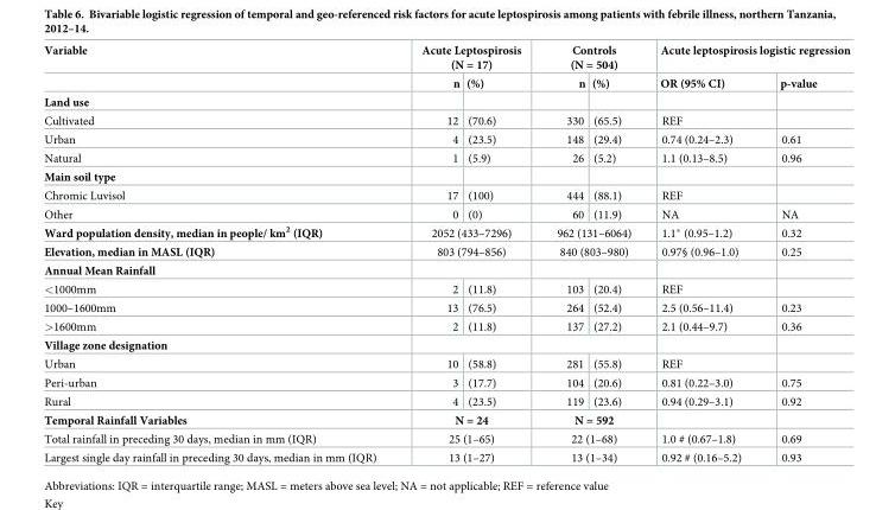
<table><thead><tr><td rowspan="2">Variable</td><td colspan="2">Acute Leptospirosis (N = 17)</td><td colspan="2">Controls (N = 504)</td><td colspan="2">Acute leptospirosis logistic regression</td></tr><tr><td>n</td><td>(%)</td><td>n</td><td>(%)</td><td>OR (95% CI)</td><td>p-value</td></tr></thead><tbody><tr><td colspan="7">Land use</td></tr><tr><td>Cultivated</td><td>12</td><td>(70.6)</td><td>330</td><td>(65.5)</td><td>REF</td><td></td></tr><tr><td>Urban</td><td>4</td><td>(23.5)</td><td>148</td><td>(29.4)</td><td>0.74 (0.24–2.3)</td><td>0.61</td></tr><tr><td>Natural</td><td>1</td><td>(5.9)</td><td>26</td><td>(5.2)</td><td>1.1 (0.13–8.5)</td><td>0.96</td></tr><tr><td colspan="7">Main soil type</td></tr><tr><td>Chromic Luvisol</td><td>17</td><td>(100)</td><td>444</td><td>(88.1)</td><td>REF</td><td></td></tr><tr><td>Other</td><td>0</td><td>(0)</td><td>60</td><td>(11.9)</td><td>NA</td><td>NA</td></tr><tr><td>Ward population density, median in people/ km<sup>2</sup> (IQR)</td><td colspan="2">2052 (433–7296)</td><td colspan="2">962 (131–6064)</td><td>1.1* (0.95–1.2)</td><td>0.32</td></tr><tr><td>Elevation, median in MASL (IQR)</td><td colspan="2">803 (794–856)</td><td colspan="2">840 (803–980)</td><td>0.97§ (0.96–1.0)</td><td>0.25</td></tr><tr><td colspan="7">Annual Mean Rainfall</td></tr><tr><td>&lt;1000mm</td><td>2</td><td>(11.8)</td><td>103</td><td>(20.4)</td><td>REF</td><td></td></tr><tr><td>1000–1600mm</td><td>13</td><td>(76.5)</td><td>264</td><td>(52.4)</td><td>2.5 (0.56–11.4)</td><td>0.23</td></tr><tr><td>&gt;1600mm</td><td>2</td><td>(11.8)</td><td>137</td><td>(27.2)</td><td>2.1 (0.44–9.7)</td><td>0.36</td></tr><tr><td colspan="7">Village zone designation</td></tr><tr><td>Urban</td><td>10</td><td>(58.8)</td><td>281</td><td>(55.8)</td><td>REF</td><td></td></tr><tr><td>Peri-urban</td><td>3</td><td>(17.7)</td><td>104</td><td>(20.6)</td><td>0.81 (0.22–3.0)</td><td>0.75</td></tr><tr><td>Rural</td><td>4</td><td>(23.5)</td><td>119</td><td>(23.6)</td><td>0.94 (0.29–3.1)</td><td>0.92</td></tr><tr><td>Temporal Rainfall Variables</td><td colspan="2">N = 24</td><td colspan="2">N = 592</td><td></td><td></td></tr><tr><td>Total rainfall in preceding 30 days, median in mm (IQR)</td><td colspan="2">25 (1–65)</td><td colspan="2">22 (1–68)</td><td>1.0 # (0.67–1.8)</td><td>0.69</td></tr><tr><td>Largest single day rainfall in preceding 30 days, median in mm (IQR)</td><td colspan="2">13 (1–27)</td><td colspan="2">13 (1–34)</td><td>0.92 # (0.16–5.2)</td><td>0.93</td></tr></tbody></table>